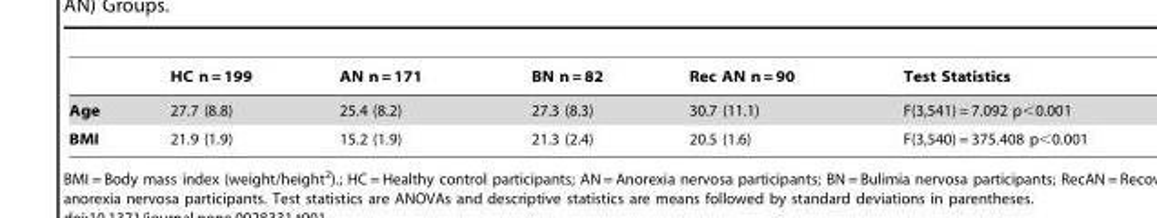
<table><thead><tr><td></td><td>HC n = 199</td><td>AN n = 171</td><td>BN n = 82</td><td>Rec AN n = 90</td><td>Test Statistics</td></tr></thead><tbody><tr><td>Age</td><td>27.7 (8.8)</td><td>25.4 (8.2)</td><td>27.3 (8.3)</td><td>30.7 (11.1)</td><td>F(3,541) = 7.092 p&lt;0.001</td></tr><tr><td>BMI</td><td>21.9 (1.9)</td><td>15.2 (1.9)</td><td>21.3 (2.4)</td><td>20.5 (1.6)</td><td>F(3,540) = 375.408 p&lt;0.001</td></tr></tbody></table>